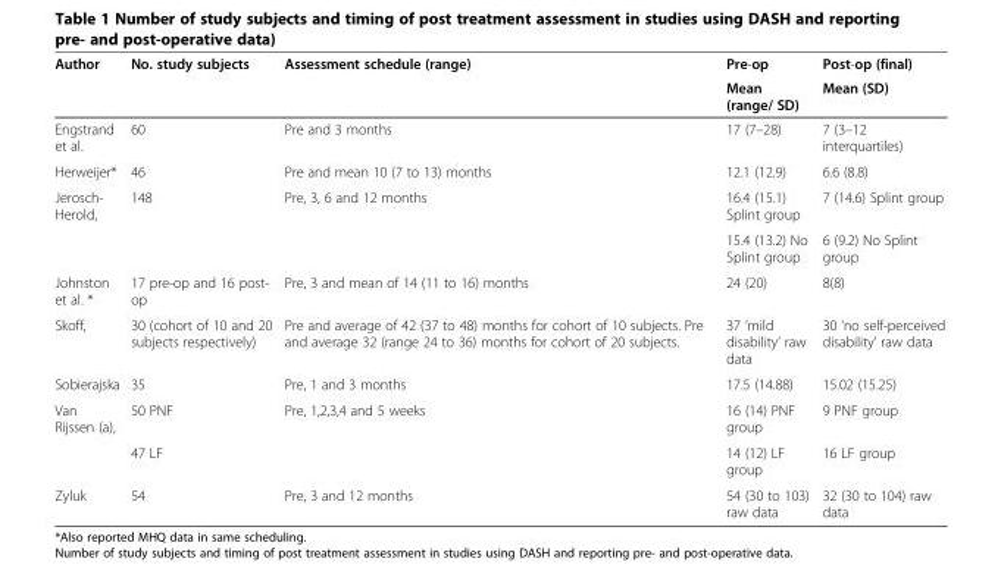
<table><thead><tr><td rowspan="2">Author</td><td rowspan="2">No. study subjects</td><td rowspan="2">Assessment schedule (range)</td><td rowspan="2">Pre-op Mean (range/ SD)</td><td rowspan="2">Post-op (final) Mean (SD)</td></tr><tr></tr></thead><tbody><tr><td>Engstrand et al.</td><td>60</td><td>Pre and 3 months</td><td>17 (7–28)</td><td>7 (3–12 interquartiles)</td></tr><tr><td>Herweijer*</td><td>46</td><td>Pre and mean 10 (7 to 13) months</td><td>12.1 (12.9)</td><td>6.6 (8.8)</td></tr><tr><td rowspan="2">Jerosch- Herold,</td><td rowspan="2">148</td><td rowspan="2">Pre, 3, 6 and 12 months</td><td>16.4 (15.1) Splint group</td><td>7 (14.6) Splint group</td></tr><tr><td>15.4 (13.2) No Splint group</td><td>6 (9.2) No Splint group</td></tr><tr><td>Johnston et al. *</td><td>17 pre-op and 16 post- op</td><td>Pre, 3 and mean of 14 (11 to 16) months</td><td>24 (20)</td><td>8(8)</td></tr><tr><td>Skoff,</td><td>30 (cohort of 10 and 20 subjects respectively)</td><td>Pre and average of 42 (37 to 48) months for cohort of 10 subjects. Pre and average 32 (range 24 to 36) months for cohort of 20 subjects.</td><td>37 ‘mild disability’ raw data</td><td>30 ‘no self-perceived disability’ raw data</td></tr><tr><td>Sobierajska</td><td>35</td><td>Pre, 1 and 3 months</td><td>17.5 (14.88)</td><td>15.02 (15.25)</td></tr><tr><td rowspan="2">Van Rijssen (a),</td><td>50 PNF</td><td rowspan="2">Pre, 1,2,3,4 and 5 weeks</td><td>16 (14) PNF group</td><td>9 PNF group</td></tr><tr><td>47 LF</td><td>14 (12) LF group</td><td>16 LF group</td></tr><tr><td>Zyluk</td><td>54</td><td>Pre, 3 and 12 months</td><td>54 (30 to 103) raw data</td><td>32 (30 to 104) raw data</td></tr></tbody></table>